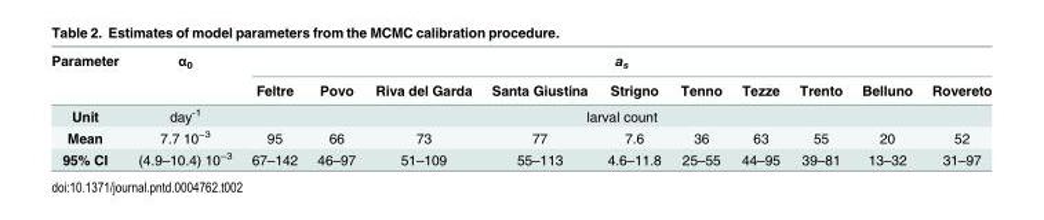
<table><thead><tr><td rowspan="2">Parameter</td><td rowspan="2">α<sub>0</sub></td><td colspan="10">a<sub>s</sub></td></tr><tr><td>Feltre</td><td>Povo</td><td>Riva del Garda</td><td>Santa Giustina</td><td>Strigno</td><td>Tenno</td><td>Tezze</td><td>Trento</td><td>Belluno</td><td>Rovereto</td></tr></thead><tbody><tr><td>Unit</td><td>day<sup>-1</sup></td><td colspan="10">larval count</td></tr><tr><td>Mean</td><td>7.7 10<sup>−3</sup></td><td>95</td><td>66</td><td>73</td><td>77</td><td>7.6</td><td>36</td><td>63</td><td>55</td><td>20</td><td>52</td></tr><tr><td>95% CI</td><td>(4.9–10.4) 10<sup>−3</sup></td><td>67–142</td><td>46–97</td><td>51–109</td><td>55–113</td><td>4.6–11.8</td><td>25–55</td><td>44–95</td><td>39–81</td><td>13–32</td><td>31–97</td></tr></tbody></table>